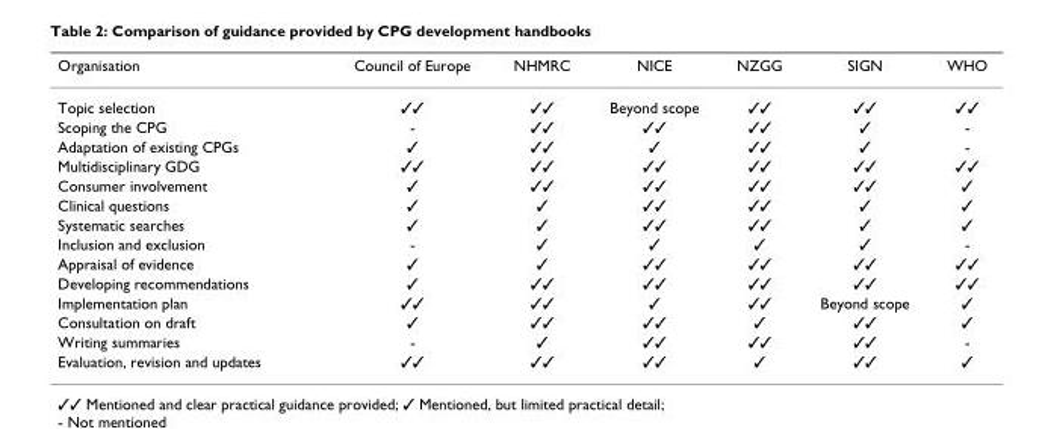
<table><thead><tr><td>Organisation</td><td>Council of Europe</td><td>NHMRC</td><td>NICE</td><td>NZGG</td><td>SIGN</td><td>WHO</td></tr></thead><tbody><tr><td>Topic selection</td><td>✓✓</td><td>✓✓</td><td>Beyond scope</td><td>✓✓</td><td>✓✓</td><td>✓✓</td></tr><tr><td>Scoping the CPG</td><td>-</td><td>✓✓</td><td>✓✓</td><td>✓✓</td><td>✓</td><td>-</td></tr><tr><td>Adaptation of existing CPGs</td><td>✓</td><td>✓✓</td><td>✓</td><td>✓✓</td><td>✓</td><td>-</td></tr><tr><td>Multidisciplinary GDG</td><td>✓✓</td><td>✓✓</td><td>✓✓</td><td>✓✓</td><td>✓✓</td><td>✓✓</td></tr><tr><td>Consumer involvement</td><td>✓</td><td>✓✓</td><td>✓✓</td><td>✓✓</td><td>✓✓</td><td>✓</td></tr><tr><td>Clinical questions</td><td>✓</td><td>✓</td><td>✓✓</td><td>✓✓</td><td>✓</td><td>✓</td></tr><tr><td>Systematic searches</td><td>✓</td><td>✓</td><td>✓✓</td><td>✓✓</td><td>✓</td><td>✓</td></tr><tr><td>Inclusion and exclusion</td><td>-</td><td>✓</td><td>✓</td><td>✓</td><td>✓</td><td>-</td></tr><tr><td>Appraisal of evidence</td><td>✓</td><td>✓</td><td>✓✓</td><td>✓✓</td><td>✓✓</td><td>✓✓</td></tr><tr><td>Developing recommendations</td><td>✓</td><td>✓✓</td><td>✓✓</td><td>✓✓</td><td>✓✓</td><td>✓✓</td></tr><tr><td>Implementation plan</td><td>✓✓</td><td>✓✓</td><td>✓</td><td>✓✓</td><td>Beyond scope</td><td>✓</td></tr><tr><td>Consultation on draft</td><td>✓</td><td>✓✓</td><td>✓✓</td><td>✓</td><td>✓✓</td><td>✓</td></tr><tr><td>Writing summaries</td><td>-</td><td>✓</td><td>✓✓</td><td>✓✓</td><td>✓✓</td><td>-</td></tr><tr><td>Evaluation, revision and updates</td><td>✓✓</td><td>✓✓</td><td>✓✓</td><td>✓</td><td>✓✓</td><td>✓</td></tr></tbody></table>